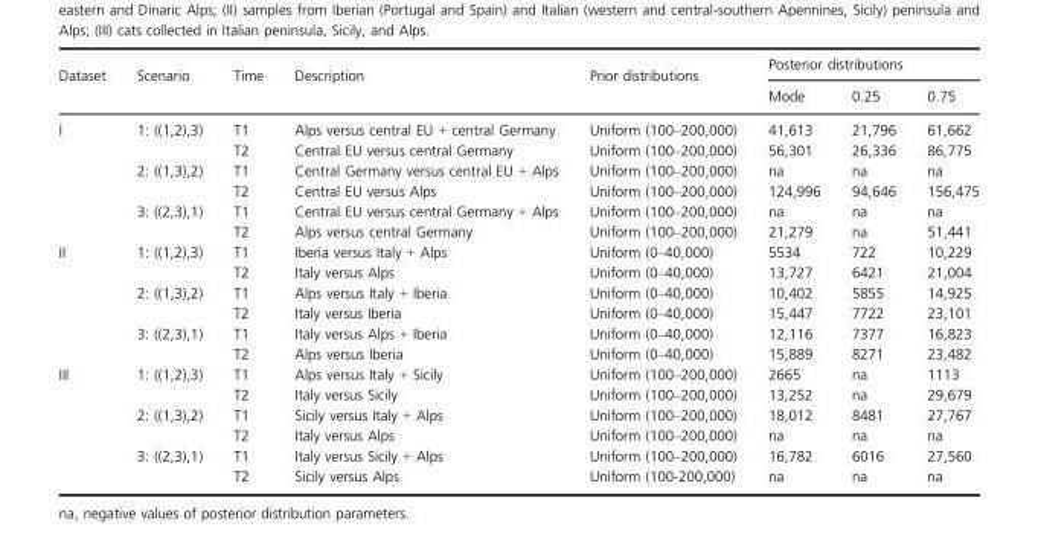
<table><thead><tr><td rowspan="2">Dataset</td><td rowspan="2">Scenario</td><td rowspan="2">Time</td><td rowspan="2">Description</td><td rowspan="2">Prior distributions</td><td colspan="3">Posterior distributions</td></tr><tr><td>Mode</td><td>0.25</td><td>0.75</td></tr></thead><tbody><tr><td rowspan="6">I</td><td rowspan="2">1: ((1,2),3)</td><td>T1</td><td>Alps versus central EU + central Germany</td><td>Uniform (100–200,000)</td><td>41,613</td><td>21,796</td><td>61,662</td></tr><tr><td>T2</td><td>Central EU versus central Germany</td><td>Uniform (100–200,000)</td><td>56,301</td><td>26,336</td><td>86,775</td></tr><tr><td rowspan="2">2: ((1,3),2)</td><td>T1</td><td>Central Germany versus central EU + Alps</td><td>Uniform (100–200,000)</td><td>na</td><td>na</td><td>na</td></tr><tr><td>T2</td><td>Central EU versus Alps</td><td>Uniform (100–200,000)</td><td>124,996</td><td>94,646</td><td>156,475</td></tr><tr><td rowspan="2">3: ((2,3),1)</td><td>T1</td><td>Central EU versus central Germany + Alps</td><td>Uniform (100–200,000)</td><td>na</td><td>na</td><td>na</td></tr><tr><td>T2</td><td>Alps versus central Germany</td><td>Uniform (100–200,000)</td><td>21,279</td><td>na</td><td>51,441</td></tr><tr><td rowspan="6">II</td><td rowspan="2">1: ((1,2),3)</td><td>T1</td><td>Iberia versus Italy + Alps</td><td>Uniform (0–40,000)</td><td>5534</td><td>722</td><td>10,229</td></tr><tr><td>T2</td><td>Italy versus Alps</td><td>Uniform (0–40,000)</td><td>13,727</td><td>6421</td><td>21,004</td></tr><tr><td rowspan="2">2: ((1,3),2)</td><td>T1</td><td>Alps versus Italy + Iberia</td><td>Uniform (0–40,000)</td><td>10,402</td><td>5855</td><td>14,925</td></tr><tr><td>T2</td><td>Italy versus Iberia</td><td>Uniform (0–40,000)</td><td>15,447</td><td>7722</td><td>23,101</td></tr><tr><td rowspan="2">3: ((2,3),1)</td><td>T1</td><td>Italy versus Alps + Iberia</td><td>Uniform (0–40,000)</td><td>12,116</td><td>7377</td><td>16,823</td></tr><tr><td>T2</td><td>Alps versus Iberia</td><td>Uniform (0–40,000)</td><td>15,889</td><td>8271</td><td>23,482</td></tr><tr><td rowspan="6">III</td><td rowspan="2">1: ((1,2),3)</td><td>T1</td><td>Alps versus Italy + Sicily</td><td>Uniform (100–200,000)</td><td>2665</td><td>na</td><td>1113</td></tr><tr><td>T2</td><td>Italy versus Sicily</td><td>Uniform (100–200,000)</td><td>13,252</td><td>na</td><td>29,679</td></tr><tr><td rowspan="2">2: ((1,3),2)</td><td>T1</td><td>Sicily versus Italy + Alps</td><td>Uniform (100–200,000)</td><td>18,012</td><td>8481</td><td>27,767</td></tr><tr><td>T2</td><td>Italy versus Alps</td><td>Uniform (100–200,000)</td><td>na</td><td>na</td><td>na</td></tr><tr><td rowspan="2">3: ((2,3),1)</td><td>T1</td><td>Italy versus Sicily + Alps</td><td>Uniform (100–200,000)</td><td>16,782</td><td>6016</td><td>27,560</td></tr><tr><td>T2</td><td>Sicily versus Alps</td><td>Uniform (100-200,000)</td><td>na</td><td>na</td><td>na</td></tr></tbody></table>